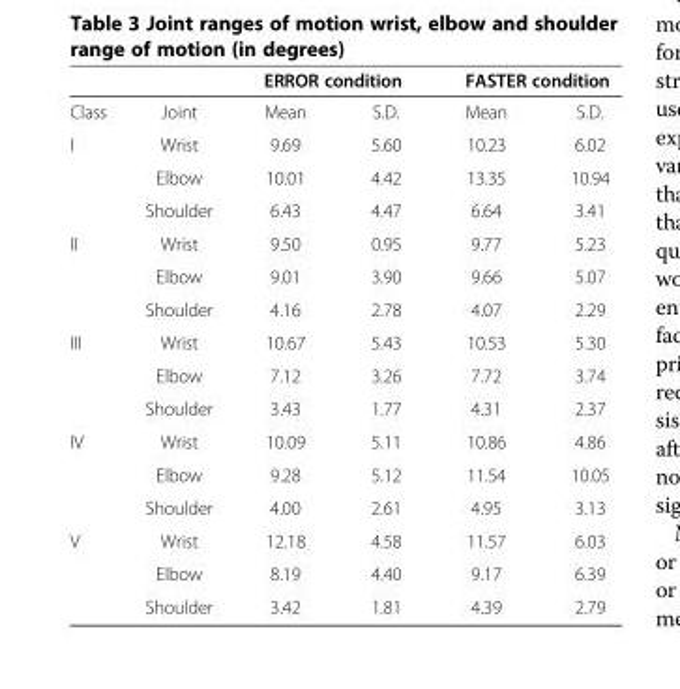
<table><thead><tr><td rowspan="2">Class</td><td rowspan="2">Joint</td><td colspan="2">ERROR condition</td><td colspan="2">FASTER condition</td></tr><tr><td>Mean</td><td>S.D.</td><td>Mean</td><td>S.D.</td></tr></thead><tbody><tr><td rowspan="3">I</td><td>Wrist</td><td>9.69</td><td>5.60</td><td>10.23</td><td>6.02</td></tr><tr><td>Elbow</td><td>10.01</td><td>4.42</td><td>13.35</td><td>10.94</td></tr><tr><td>Shoulder</td><td>6.43</td><td>4.47</td><td>6.64</td><td>3.41</td></tr><tr><td rowspan="3">II</td><td>Wrist</td><td>9.50</td><td>0.95</td><td>9.77</td><td>5.23</td></tr><tr><td>Elbow</td><td>9.01</td><td>3.90</td><td>9.66</td><td>5.07</td></tr><tr><td>Shoulder</td><td>4.16</td><td>2.78</td><td>4.07</td><td>2.29</td></tr><tr><td rowspan="3">III</td><td>Wrist</td><td>10.67</td><td>5.43</td><td>10.53</td><td>5.30</td></tr><tr><td>Elbow</td><td>7.12</td><td>3.26</td><td>7.72</td><td>3.74</td></tr><tr><td>Shoulder</td><td>3.43</td><td>1.77</td><td>4.31</td><td>2.37</td></tr><tr><td rowspan="3">IV</td><td>Wrist</td><td>10.09</td><td>5.11</td><td>10.86</td><td>4.86</td></tr><tr><td>Elbow</td><td>9.28</td><td>5.12</td><td>11.54</td><td>10.05</td></tr><tr><td>Shoulder</td><td>4.00</td><td>2.61</td><td>4.95</td><td>3.13</td></tr><tr><td rowspan="3">V</td><td>Wrist</td><td>12.18</td><td>4.58</td><td>11.57</td><td>6.03</td></tr><tr><td>Elbow</td><td>8.19</td><td>4.40</td><td>9.17</td><td>6.39</td></tr><tr><td>Shoulder</td><td>3.42</td><td>1.81</td><td>4.39</td><td>2.79</td></tr></tbody></table>